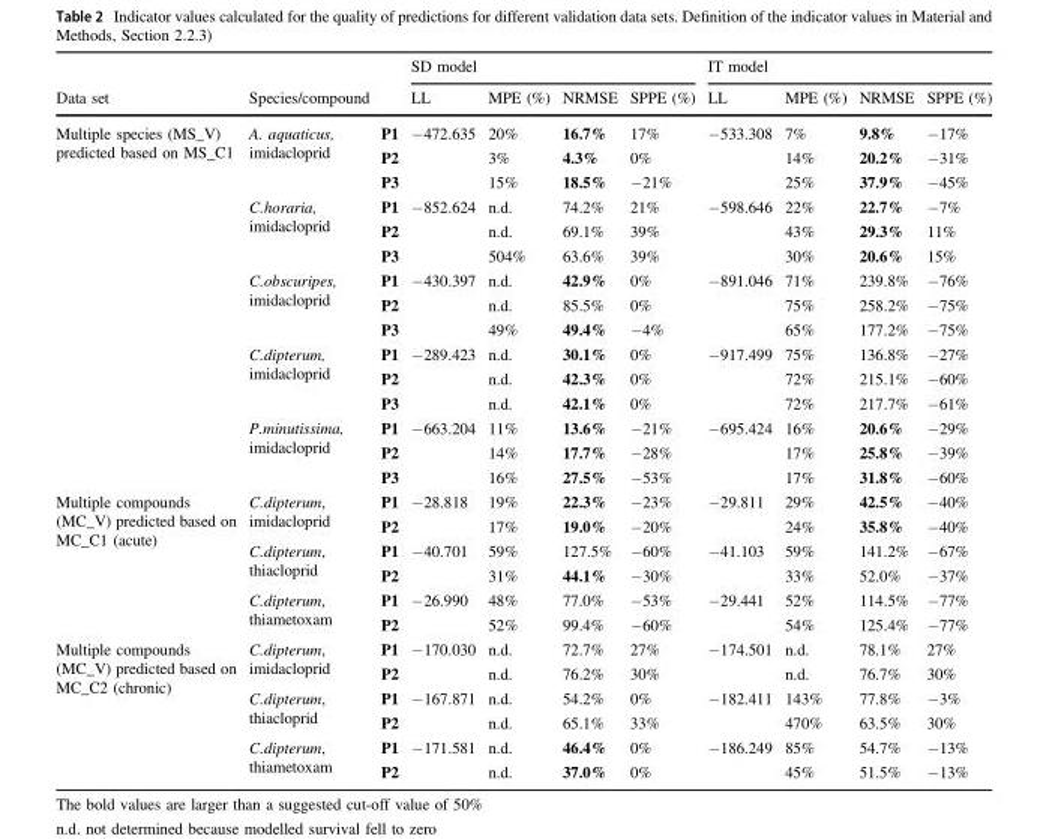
<table><thead><tr><td rowspan="2">Data set</td><td></td><td></td><td colspan="4">SD model</td><td colspan="4">IT model</td></tr><tr><td colspan="2">Species/compound</td><td>LL</td><td>MPE (%)</td><td>NRMSE</td><td>SPPE (%)</td><td>LL</td><td>MPE (%)</td><td>NRMSE</td><td>SPPE (%)</td></tr></thead><tbody><tr><td rowspan="15">Multiple species (MS_V) predicted based on MS_C1</td><td rowspan="3">A. aquaticus, imidacloprid</td><td>P1</td><td rowspan="3">−472.635</td><td>20%</td><td>16.7%</td><td>17%</td><td rowspan="3">−533.308</td><td>7%</td><td>9.8%</td><td>−17%</td></tr><tr><td>P2</td><td>3%</td><td>4.3%</td><td>0%</td><td>14%</td><td>20.2%</td><td>−31%</td></tr><tr><td>P3</td><td>15%</td><td>18.5%</td><td>−21%</td><td>25%</td><td>37.9%</td><td>−45%</td></tr><tr><td rowspan="3">C.horaria, imidacloprid</td><td>P1</td><td rowspan="3">−852.624</td><td>n.d.</td><td>74.2%</td><td>21%</td><td rowspan="3">−598.646</td><td>22%</td><td>22.7%</td><td>−7%</td></tr><tr><td>P2</td><td>n.d.</td><td>69.1%</td><td>39%</td><td>43%</td><td>29.3%</td><td>11%</td></tr><tr><td>P3</td><td>504%</td><td>63.6%</td><td>39%</td><td>30%</td><td>20.6%</td><td>15%</td></tr><tr><td rowspan="3">C.obscuripes, imidacloprid</td><td>P1</td><td rowspan="3">−430.397</td><td>n.d.</td><td>42.9%</td><td>0%</td><td rowspan="3">−891.046</td><td>71%</td><td>239.8%</td><td>−76%</td></tr><tr><td>P2</td><td>n.d.</td><td>85.5%</td><td>0%</td><td>75%</td><td>258.2%</td><td>−75%</td></tr><tr><td>P3</td><td>49%</td><td>49.4%</td><td>−4%</td><td>65%</td><td>177.2%</td><td>−75%</td></tr><tr><td rowspan="3">C.dipterum, imidacloprid</td><td>P1</td><td rowspan="3">−289.423</td><td>n.d.</td><td>30.1%</td><td>0%</td><td rowspan="3">−917.499</td><td>75%</td><td>136.8%</td><td>−27%</td></tr><tr><td>P2</td><td>n.d.</td><td>42.3%</td><td>0%</td><td>72%</td><td>215.1%</td><td>−60%</td></tr><tr><td>P3</td><td>n.d.</td><td>42.1%</td><td>0%</td><td>72%</td><td>217.7%</td><td>−61%</td></tr><tr><td rowspan="3">P.minutissima, imidacloprid</td><td>P1</td><td rowspan="3">−663.204</td><td>11%</td><td>13.6%</td><td>−21%</td><td rowspan="3">−695.424</td><td>16%</td><td>20.6%</td><td>−29%</td></tr><tr><td>P2</td><td>14%</td><td>17.7%</td><td>−28%</td><td>17%</td><td>25.8%</td><td>−39%</td></tr><tr><td>P3</td><td>16%</td><td>27.5%</td><td>−53%</td><td>17%</td><td>31.8%</td><td>−60%</td></tr><tr><td rowspan="6">Multiple compounds (MC_V) predicted based on MC_C1 (acute)</td><td rowspan="2">C.dipterum, imidacloprid</td><td>P1</td><td rowspan="2">−28.818</td><td>19%</td><td>22.3%</td><td>−23%</td><td rowspan="2">−29.811</td><td>29%</td><td>42.5%</td><td>−40%</td></tr><tr><td>P2</td><td>17%</td><td>19.0%</td><td>−20%</td><td>24%</td><td>35.8%</td><td>−40%</td></tr><tr><td rowspan="2">C.dipterum, thiacloprid</td><td>P1</td><td rowspan="2">−40.701</td><td>59%</td><td>127.5%</td><td>−60%</td><td rowspan="2">−41.103</td><td>59%</td><td>141.2%</td><td>−67%</td></tr><tr><td>P2</td><td>31%</td><td>44.1%</td><td>−30%</td><td>33%</td><td>52.0%</td><td>−37%</td></tr><tr><td rowspan="2">C.dipterum, thiametoxam</td><td>P1</td><td rowspan="2">−26.990</td><td>48%</td><td>77.0%</td><td>−53%</td><td rowspan="2">−29.441</td><td>52%</td><td>114.5%</td><td>−77%</td></tr><tr><td>P2</td><td>52%</td><td>99.4%</td><td>−60%</td><td>54%</td><td>125.4%</td><td>−77%</td></tr><tr><td rowspan="6">Multiple compounds (MC_V) predicted based on MC_C2 (chronic)</td><td rowspan="2">C.dipterum, imidacloprid</td><td>P1</td><td rowspan="2">−170.030</td><td>n.d.</td><td>72.7%</td><td>27%</td><td rowspan="2">−174.501</td><td>n.d.</td><td>78.1%</td><td>27%</td></tr><tr><td>P2</td><td>n.d.</td><td>76.2%</td><td>30%</td><td>n.d.</td><td>76.7%</td><td>30%</td></tr><tr><td rowspan="2">C.dipterum, thiacloprid</td><td>P1</td><td rowspan="2">−167.871</td><td>n.d.</td><td>54.2%</td><td>0%</td><td rowspan="2">−182.411</td><td>143%</td><td>77.8%</td><td>−3%</td></tr><tr><td>P2</td><td>n.d.</td><td>65.1%</td><td>33%</td><td>470%</td><td>63.5%</td><td>30%</td></tr><tr><td rowspan="2">C.dipterum, thiametoxam</td><td>P1</td><td rowspan="2">−171.581</td><td>n.d.</td><td>46.4%</td><td>0%</td><td rowspan="2">−186.249</td><td>85%</td><td>54.7%</td><td>−13%</td></tr><tr><td>P2</td><td>n.d.</td><td>37.0%</td><td>0%</td><td>45%</td><td>51.5%</td><td>−13%</td></tr></tbody></table>